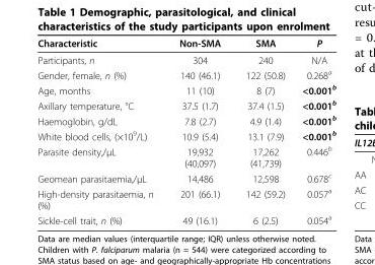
<table><thead><tr><td>Characteristic</td><td>Non-SMA</td><td>SMA</td><td>P</td></tr></thead><tbody><tr><td>Participants, n</td><td>304</td><td>240</td><td>N/A</td></tr><tr><td>Gender, female, n (%)</td><td>140 (46.1)</td><td>122 (50.8)</td><td>0.268<sup>a</sup></td></tr><tr><td>Age, months</td><td>11 (10)</td><td>8 (7)</td><td>&lt;0.001<sup>b</sup></td></tr><tr><td>Axillary temperature, °C</td><td>37.5 (1.7)</td><td>37.4 (1.5)</td><td>&lt;0.001<sup>b</sup></td></tr><tr><td>Haemoglobin, g/dL</td><td>7.8 (2.7)</td><td>4.9 (1.4)</td><td>&lt;0.001<sup>b</sup></td></tr><tr><td>White blood cells, (×10<sup>9</sup>/L)</td><td>10.9 (5.4)</td><td>13.1 (7.9)</td><td>&lt;0.001<sup>b</sup></td></tr><tr><td>Parasite density,/μL</td><td>19,932 (40,097)</td><td>17,262 (41,739)</td><td>0.446<sup>b</sup></td></tr><tr><td>Geomean parasitaemia,/μL</td><td>14,486</td><td>12,598</td><td>0.678<sup>c</sup></td></tr><tr><td>High-density parasitaemia, n (%)</td><td>201 (66.1)</td><td>142 (59.2)</td><td>0.057<sup>a</sup></td></tr><tr><td>Sickle-cell trait, n (%)</td><td>49 (16.1)</td><td>6 (2.5)</td><td>0.054<sup>a</sup></td></tr></tbody></table>